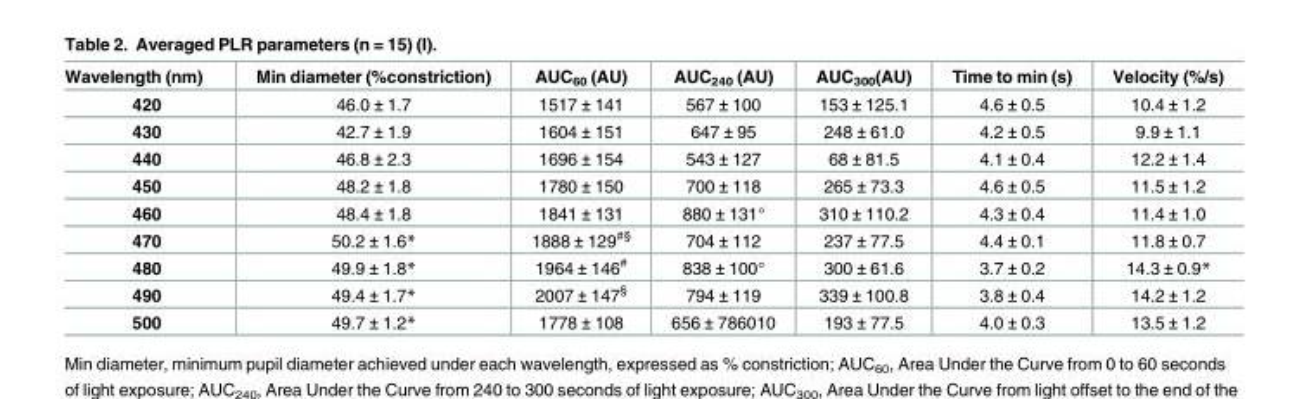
<table><thead><tr><td>Wavelength (nm)</td><td>Min diameter (%constriction)</td><td>AUC<sub>60</sub> (AU)</td><td>AUC<sub>240</sub> (AU)</td><td>AUC<sub>300</sub>(AU)</td><td>Time to min (s)</td><td>Velocity (%/s)</td></tr></thead><tbody><tr><td>420</td><td>46.0 ± 1.7</td><td>1517 ± 141</td><td>567 ± 100</td><td>153 ± 125.1</td><td>4.6 ± 0.5</td><td>10.4 ± 1.2</td></tr><tr><td>430</td><td>42.7 ± 1.9</td><td>1604 ± 151</td><td>647 ± 95</td><td>248 ± 61.0</td><td>4.2 ± 0.5</td><td>9.9 ± 1.1</td></tr><tr><td>440</td><td>46.8 ± 2.3</td><td>1696 ± 154</td><td>543 ± 127</td><td>68 ± 81.5</td><td>4.1 ± 0.4</td><td>12.2 ± 1.4</td></tr><tr><td>450</td><td>48.2 ± 1.8</td><td>1780 ± 150</td><td>700 ± 118</td><td>265 ± 73.3</td><td>4.6 ± 0.5</td><td>11.5 ± 1.2</td></tr><tr><td>460</td><td>48.4 ± 1.8</td><td>1841 ± 131</td><td>880 ± 131°</td><td>310 ± 110.2</td><td>4.3 ± 0.4</td><td>11.4 ± 1.0</td></tr><tr><td>470</td><td>50.2 ± 1.6*</td><td>1888 ± 129<sup>#§</sup></td><td>704 ± 112</td><td>237 ± 77.5</td><td>4.4 ± 0.1</td><td>11.8 ± 0.7</td></tr><tr><td>480</td><td>49.9 ± 1.8*</td><td>1964 ± 146<sup>#</sup></td><td>838 ± 100°</td><td>300 ± 61.6</td><td>3.7 ± 0.2</td><td>14.3 ± 0.9*</td></tr><tr><td>490</td><td>49.4 ± 1.7*</td><td>2007 ± 147<sup>§</sup></td><td>794 ± 119</td><td>339 ± 100.8</td><td>3.8 ± 0.4</td><td>14.2 ± 1.2</td></tr><tr><td>500</td><td>49.7 ± 1.2*</td><td>1778 ± 108</td><td>656 ± 786010</td><td>193 ± 77.5</td><td>4.0 ± 0.3</td><td>13.5 ± 1.2</td></tr></tbody></table>